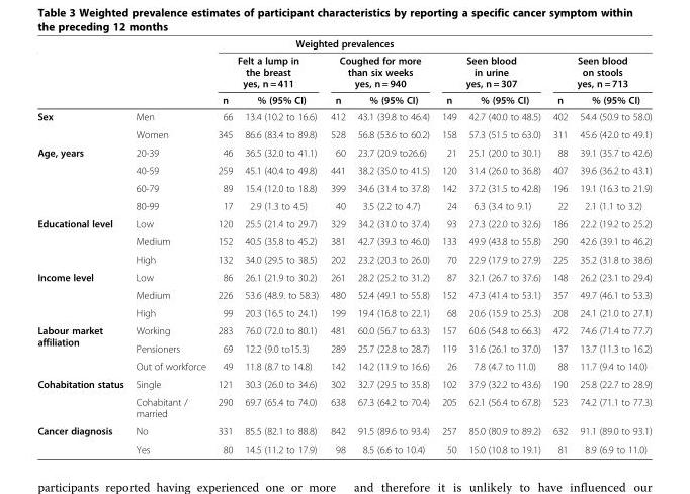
<table><thead><tr><td rowspan="3"></td><td rowspan="3"></td><td colspan="8">Weighted prevalences</td></tr><tr><td colspan="2">Felt a lump in the breast yes, n = 411</td><td colspan="2">Coughed for more than six weeks yes, n = 940</td><td colspan="2">Seen blood in urine yes, n = 307</td><td colspan="2">Seen blood on stools yes, n = 713</td></tr><tr><td>n</td><td>% (95% CI)</td><td>n</td><td>% (95% CI)</td><td>n</td><td>% (95% CI)</td><td>n</td><td>% (95% CI)</td></tr></thead><tbody><tr><td rowspan="2">Sex</td><td>Men</td><td>66</td><td>13.4 (10.2 to 16.6)</td><td>412</td><td>43.1 (39.8 to 46.4)</td><td>149</td><td>42.7 (40.0 to 48.5)</td><td>402</td><td>54.4 (50.9 to 58.0)</td></tr><tr><td>Women</td><td>345</td><td>86.6 (83.4 to 89.8)</td><td>528</td><td>56.8 (53.6 to 60.2)</td><td>158</td><td>57.3 (51.5 to 63.0)</td><td>311</td><td>45.6 (42.0 to 49.1)</td></tr><tr><td rowspan="4">Age, years</td><td>20-39</td><td>46</td><td>36.5 (32.0 to 41.1)</td><td>60</td><td>23.7 (20.9 to26.6)</td><td>21</td><td>25.1 (20.0 to 30.1)</td><td>88</td><td>39.1 (35.7 to 42.6)</td></tr><tr><td>40-59</td><td>259</td><td>45.1 (40.4 to 49.8)</td><td>441</td><td>38.2 (35.0 to 41.5)</td><td>120</td><td>31.4 (26.0 to 36.8)</td><td>407</td><td>39.6 (36.2 to 43.1)</td></tr><tr><td>60-79</td><td>89</td><td>15.4 (12.0 to 18.8)</td><td>399</td><td>34.6 (31.4 to 37.8)</td><td>142</td><td>37.2 (31.5 to 42.8)</td><td>196</td><td>19.1 (16.3 to 21.9)</td></tr><tr><td>80-99</td><td>17</td><td>2.9 (1.3 to 4.5)</td><td>40</td><td>3.5 (2.2 to 4.7)</td><td>24</td><td>6.3 (3.4 to 9.1)</td><td>22</td><td>2.1 (1.1 to 3.2)</td></tr><tr><td rowspan="3">Educational level</td><td>Low</td><td>120</td><td>25.5 (21.4 to 29.7)</td><td>329</td><td>34.2 (31.0 to 37.4)</td><td>93</td><td>27.3 (22.0 to 32.6)</td><td>186</td><td>22.2 (19.2 to 25.2)</td></tr><tr><td>Medium</td><td>152</td><td>40.5 (35.8 to 45.2)</td><td>381</td><td>42.7 (39.3 to 46.0)</td><td>133</td><td>49.9 (43.8 to 55.8)</td><td>290</td><td>42.6 (39.1 to 46.2)</td></tr><tr><td>High</td><td>132</td><td>34.0 (29.5 to 38.5)</td><td>202</td><td>23.2 (20.3 to 26.0)</td><td>70</td><td>22.9 (17.9 to 27.9)</td><td>225</td><td>35.2 (31.8 to 38.6)</td></tr><tr><td rowspan="3">Income level</td><td>Low</td><td>86</td><td>26.1 (21.9 to 30.2)</td><td>261</td><td>28.2 (25.2 to 31.2)</td><td>87</td><td>32.1 (26.7 to 37.6)</td><td>148</td><td>26.2 (23.1 to 29.4)</td></tr><tr><td>Medium</td><td>226</td><td>53.6 (48.9. to 58.3)</td><td>480</td><td>52.4 (49.1 to 55.8)</td><td>152</td><td>47.3 (41.4 to 53.1)</td><td>357</td><td>49.7 (46.1 to 53.3)</td></tr><tr><td>High</td><td>99</td><td>20.3 (16.5 to 24.1)</td><td>199</td><td>19.4 (16.8 to 22.1)</td><td>68</td><td>20.6 (15.9 to 25.3)</td><td>208</td><td>24.1 (21.0 to 27.1)</td></tr><tr><td rowspan="3">Labour market affiliation</td><td>Working</td><td>283</td><td>76.0 (72.0 to 80.1)</td><td>481</td><td>60.0 (56.7 to 63.3)</td><td>157</td><td>60.6 (54.8 to 66.3)</td><td>472</td><td>74.6 (71.4 to 77.7)</td></tr><tr><td>Pensioners</td><td>69</td><td>12.2 (9.0 to15.3)</td><td>289</td><td>25.7 (22.8 to 28.7)</td><td>119</td><td>31.6 (26.1 to 37.0)</td><td>137</td><td>13.7 (11.3 to 16.2)</td></tr><tr><td>Out of workforce</td><td>49</td><td>11.8 (8.7 to 14.8)</td><td>142</td><td>14.2 (11.9 to 16.6)</td><td>26</td><td>7.8 (4.7 to 11.0)</td><td>88</td><td>11.7 (9.4 to 14.0)</td></tr><tr><td rowspan="2">Cohabitation status</td><td>Single</td><td>121</td><td>30.3 (26.0 to 34.6)</td><td>302</td><td>32.7 (29.5 to 35.8)</td><td>102</td><td>37.9 (32.2 to 43.6)</td><td>190</td><td>25.8 (22.7 to 28.9)</td></tr><tr><td>Cohabitant / married</td><td>290</td><td>69.7 (65.4 to 74.0)</td><td>638</td><td>67.3 (64.2 to 70.4)</td><td>205</td><td>62.1 (56.4 to 67.8)</td><td>523</td><td>74.2 (71.1 to 77.3)</td></tr><tr><td rowspan="2">Cancer diagnosis</td><td>No</td><td>331</td><td>85.5 (82.1 to 88.8)</td><td>842</td><td>91.5 (89.6 to 93.4)</td><td>257</td><td>85.0 (80.9 to 89.2)</td><td>632</td><td>91.1 (89.0 to 93.1)</td></tr><tr><td>Yes</td><td>80</td><td>14.5 (11.2 to 17.9)</td><td>98</td><td>8.5 (6.6 to 10.4)</td><td>50</td><td>15.0 (10.8 to 19.1)</td><td>81</td><td>8.9 (6.9 to 11.0)</td></tr></tbody></table>